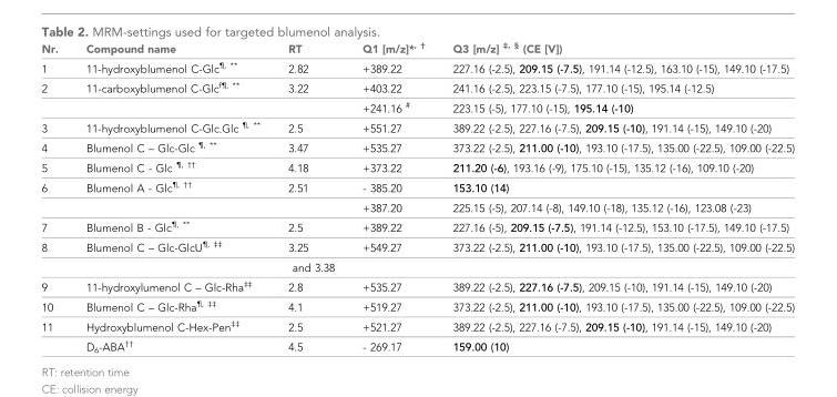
<table><thead><tr><td>Nr.</td><td>Compound name</td><td>RT</td><td>Q1 [m/z]*<sup>, †</sup></td><td>Q3 [m/z] <sup>‡, §</sup> (CE [V])</td></tr></thead><tbody><tr><td>1</td><td>11-hydroxyblumenol C-Glc<sup>¶, **</sup></td><td>2.82</td><td>+389.22</td><td>227.16 (-2.5), 209.15 (-7.5), 191.14 (-12.5), 163.10 (-15), 149.10 (-17.5)</td></tr><tr><td rowspan="2">2</td><td>11-carboxyblumenol C-Glc<sup>f¶, **</sup></td><td>3.22</td><td>+403.22</td><td>241.16 (-2.5), 223.15 (-7.5), 177.10 (-15), 195.14 (-12.5)</td></tr><tr><td></td><td></td><td>+241.16 <sup>#</sup></td><td>223.15 (-5), 177.10 (-15), 195.14 (-10)</td></tr><tr><td>3</td><td>11-hydroxyblumenol C-Glc<sub>-</sub>Glc <sup>¶, **</sup></td><td>2.5</td><td>+551.27</td><td>389.22 (-2.5), 227.16 (-7.5), 209.15 (-10), 191.14 (-15), 149.10 (-20)</td></tr><tr><td>4</td><td>Blumenol C – Glc-Glc <sup>¶, **</sup></td><td>3.47</td><td>+535.27</td><td>373.22 (-2.5), 211.00 (-10), 193.10 (-17.5), 135.00 (-22.5), 109.00 (-22.5)</td></tr><tr><td>5</td><td>Blumenol C - Glc <sup>¶, ††</sup></td><td>4.18</td><td>+373.22</td><td>211.20 (-6), 193.16 (-9), 175.10 (-15), 135.12 (-16), 109.10 (-20)</td></tr><tr><td rowspan="2">6</td><td>Blumenol A - Glc<sup>¶, ††</sup></td><td>2.51</td><td>- 385.20</td><td>153.10 (14)</td></tr><tr><td></td><td></td><td>+387.20</td><td>225.15 (-5), 207.14 (-8), 149.10 (-18), 135.12 (-16), 123.08 (-23)</td></tr><tr><td>7</td><td>Blumenol B - Glc<sup>¶, **</sup></td><td>2.5</td><td>+389.22</td><td>227.16 (-5), 209.15 (-7.5), 191.14 (-12.5), 153.10 (-17.5), 149.10 (-17.5)</td></tr><tr><td rowspan="2">8</td><td>Blumenol C – Glc-GlcU<sup>¶, ‡‡</sup></td><td>3.25</td><td>+549.27</td><td>373.22 (-2.5), 211.00 (-10), 193.10 (-17.5), 135.00 (-22.5), 109.00 (-22.5)</td></tr><tr><td></td><td>and 3.38</td><td></td><td></td></tr><tr><td>9</td><td>11-hydroxylumenol C – Glc-Rha<sup>‡‡</sup></td><td>2.8</td><td>+535.27</td><td>389.22 (-2.5), 227.16 (-7.5), 209.15 (-10), 191.14 (-15), 149.10 (-20)</td></tr><tr><td>10</td><td>Blumenol C – Glc-Rha<sup>¶, ‡‡</sup></td><td>4.1</td><td>+519.27</td><td>373.22 (-2.5), 211.00 (-10), 193.10 (-17.5), 135.00 (-22.5), 109.00 (-22.5)</td></tr><tr><td rowspan="2">11</td><td>Hydroxyblumenol C-Hex-Pen<sup>‡‡</sup></td><td>2.5</td><td>+521.27</td><td>389.22 (-2.5), 227.16 (-7.5), 209.15 (-10), 191.14 (-15), 149.10 (-20)</td></tr><tr><td>D<sub>6</sub>-ABA<sup>††</sup></td><td>4.5</td><td>- 269.17</td><td>159.00 (10)</td></tr></tbody></table>